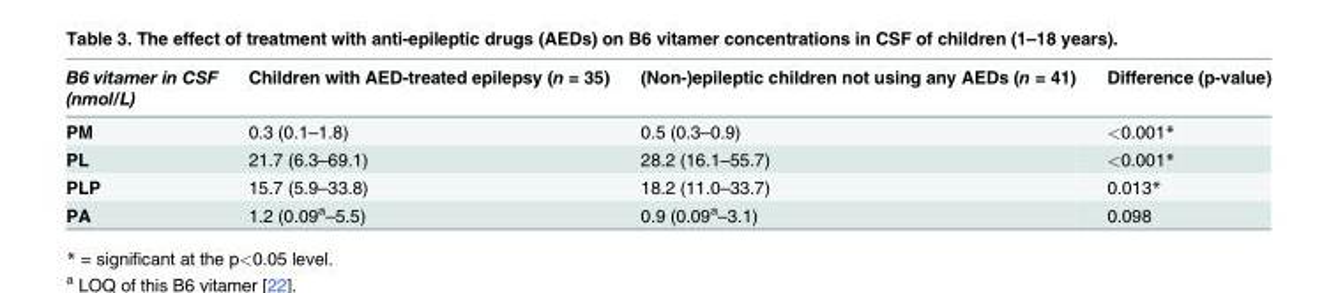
<table><thead><tr><td>B6 vitamer in CSF (nmol/L)</td><td>Children with AED-treated epilepsy (n = 35)</td><td>(Non-)epileptic children not using any AEDs (n = 41)</td><td>Difference (p-value)</td></tr></thead><tbody><tr><td>PM</td><td>0.3 (0.1–1.8)</td><td>0.5 (0.3–0.9)</td><td>&lt;0.001*</td></tr><tr><td>PL</td><td>21.7 (6.3–69.1)</td><td>28.2 (16.1–55.7)</td><td>&lt;0.001*</td></tr><tr><td>PLP</td><td>15.7 (5.9–33.8)</td><td>18.2 (11.0–33.7)</td><td>0.013*</td></tr><tr><td>PA</td><td>1.2 (0.09<sup>a</sup>–5.5)</td><td>0.9 (0.09<sup>a</sup>–3.1)</td><td>0.098</td></tr></tbody></table>